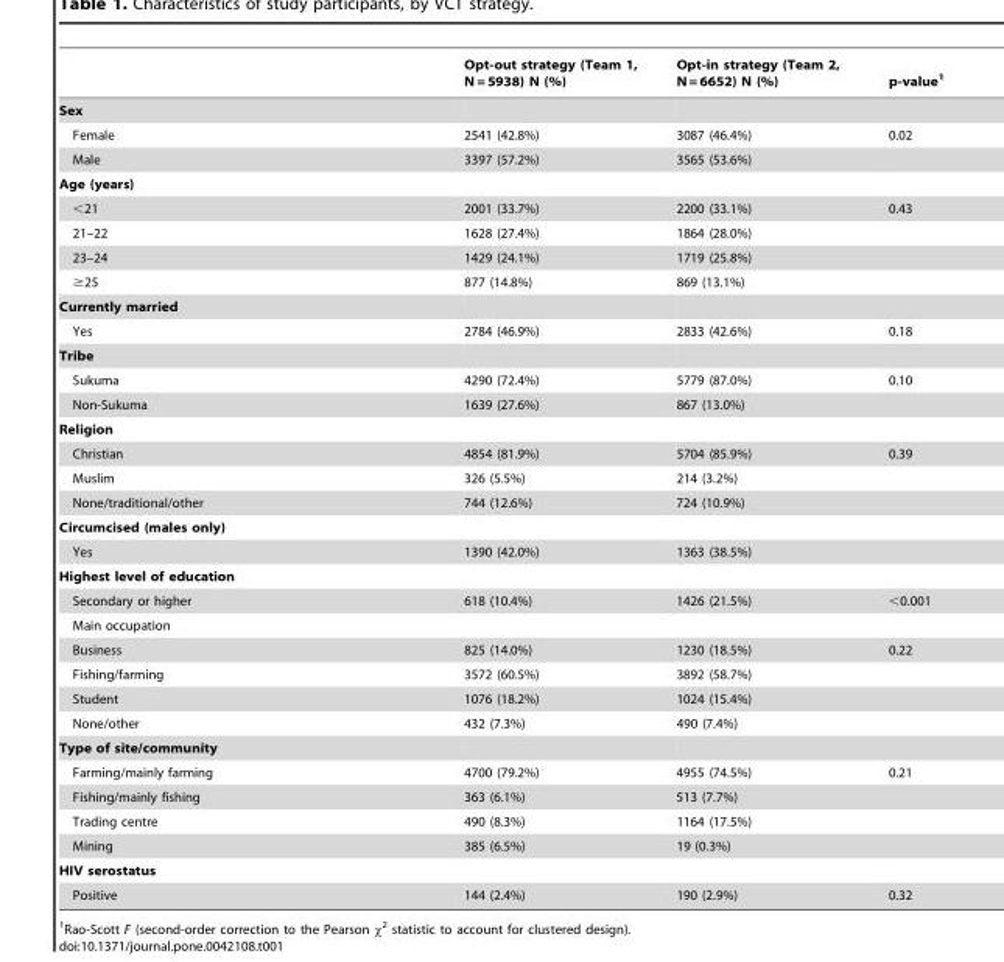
<table><thead><tr><td></td><td>Opt-out strategy (Team 1, N = 5938) N (%)</td><td>Opt-in strategy (Team 2, N = 6652) N (%)</td><td>p-value<sup>1</sup></td></tr></thead><tbody><tr><td colspan="4">Sex</td></tr><tr><td>Female</td><td>2541 (42.8%)</td><td>3087 (46.4%)</td><td>0.02</td></tr><tr><td>Male</td><td>3397 (57.2%)</td><td>3565 (53.6%)</td><td></td></tr><tr><td colspan="4">Age (years)</td></tr><tr><td>&lt;21</td><td>2001 (33.7%)</td><td>2200 (33.1%)</td><td>0.43</td></tr><tr><td>21–22</td><td>1628 (27.4%)</td><td>1864 (28.0%)</td><td></td></tr><tr><td>23–24</td><td>1429 (24.1%)</td><td>1719 (25.8%)</td><td></td></tr><tr><td>≥25</td><td>877 (14.8%)</td><td>869 (13.1%)</td><td></td></tr><tr><td colspan="4">Currently married</td></tr><tr><td>Yes</td><td>2784 (46.9%)</td><td>2833 (42.6%)</td><td>0.18</td></tr><tr><td colspan="4">Tribe</td></tr><tr><td>Sukuma</td><td>4290 (72.4%)</td><td>5779 (87.0%)</td><td>0.10</td></tr><tr><td>Non-Sukuma</td><td>1639 (27.6%)</td><td>867 (13.0%)</td><td></td></tr><tr><td colspan="4">Religion</td></tr><tr><td>Christian</td><td>4854 (81.9%)</td><td>5704 (85.9%)</td><td>0.39</td></tr><tr><td>Muslim</td><td>326 (5.5%)</td><td>214 (3.2%)</td><td></td></tr><tr><td>None/traditional/other</td><td>744 (12.6%)</td><td>724 (10.9%)</td><td></td></tr><tr><td colspan="4">Circumcised (males only)</td></tr><tr><td>Yes</td><td>1390 (42.0%)</td><td>1363 (38.5%)</td><td></td></tr><tr><td colspan="4">Highest level of education</td></tr><tr><td>Secondary or higher</td><td>618 (10.4%)</td><td>1426 (21.5%)</td><td>&lt;0.001</td></tr><tr><td colspan="4">Main occupation</td></tr><tr><td>Business</td><td>825 (14.0%)</td><td>1230 (18.5%)</td><td>0.22</td></tr><tr><td>Fishing/farming</td><td>3572 (60.5%)</td><td>3892 (58.7%)</td><td></td></tr><tr><td>Student</td><td>1076 (18.2%)</td><td>1024 (15.4%)</td><td></td></tr><tr><td>None/other</td><td>432 (7.3%)</td><td>490 (7.4%)</td><td></td></tr><tr><td colspan="4">Type of site/community</td></tr><tr><td>Farming/mainly farming</td><td>4700 (79.2%)</td><td>4955 (74.5%)</td><td>0.21</td></tr><tr><td>Fishing/mainly fishing</td><td>363 (6.1%)</td><td>513 (7.7%)</td><td></td></tr><tr><td>Trading centre</td><td>490 (8.3%)</td><td>1164 (17.5%)</td><td></td></tr><tr><td>Mining</td><td>385 (6.5%)</td><td>19 (0.3%)</td><td></td></tr><tr><td colspan="4">HIV serostatus</td></tr><tr><td>Positive</td><td>144 (2.4%)</td><td>190 (2.9%)</td><td>0.32</td></tr></tbody></table>